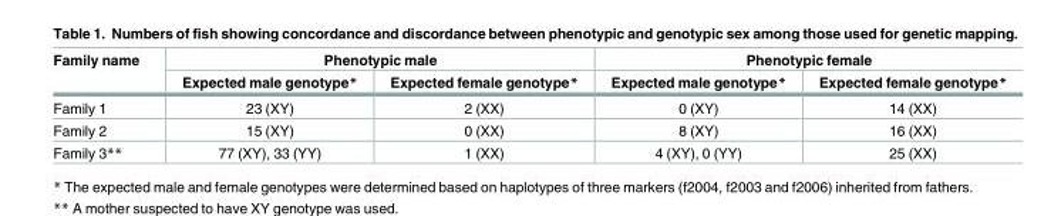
<table><thead><tr><td rowspan="2">Family name</td><td colspan="2">Phenotypic male</td><td colspan="2">Phenotypic female</td></tr><tr><td>Expected male genotype*</td><td>Expected female genotype*</td><td>Expected male genotype*</td><td>Expected female genotype*</td></tr></thead><tbody><tr><td>Family 1</td><td>23 (XY)</td><td>2 (XX)</td><td>0 (XY)</td><td>14 (XX)</td></tr><tr><td>Family 2</td><td>15 (XY)</td><td>0 (XX)</td><td>8 (XY)</td><td>16 (XX)</td></tr><tr><td>Family 3**</td><td>77 (XY), 33 (YY)</td><td>1 (XX)</td><td>4 (XY), 0 (YY)</td><td>25 (XX)</td></tr></tbody></table>